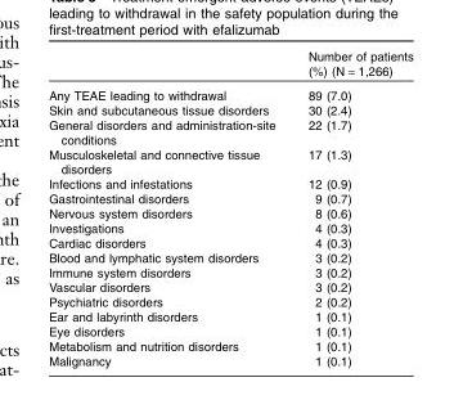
<table><thead><tr><td></td><td>Number of patients (%) (N = 1,266)</td></tr></thead><tbody><tr><td>Any TEAE leading to withdrawal</td><td>89 (7.0)</td></tr><tr><td>Skin and subcutaneous tissue disorders</td><td>30 (2.4)</td></tr><tr><td>General disorders and administration-site conditions</td><td>22 (1.7)</td></tr><tr><td>Musculoskeletal and connective tissue disorders</td><td>17 (1.3)</td></tr><tr><td>Infections and infestations</td><td>12 (0.9)</td></tr><tr><td>Gastrointestinal disorders</td><td>9 (0.7)</td></tr><tr><td>Nervous system disorders</td><td>8 (0.6)</td></tr><tr><td>Investigations</td><td>4 (0.3)</td></tr><tr><td>Cardiac disorders</td><td>4 (0.3)</td></tr><tr><td>Blood and lymphatic system disorders</td><td>3 (0.2)</td></tr><tr><td>Immune system disorders</td><td>3 (0.2)</td></tr><tr><td>Vascular disorders</td><td>3 (0.2)</td></tr><tr><td>Psychiatric disorders</td><td>2 (0.2)</td></tr><tr><td>Ear and labyrinth disorders</td><td>1 (0.1)</td></tr><tr><td>Eye disorders</td><td>1 (0.1)</td></tr><tr><td>Metabolism and nutrition disorders</td><td>1 (0.1)</td></tr><tr><td>Malignancy</td><td>1 (0.1)</td></tr></tbody></table>